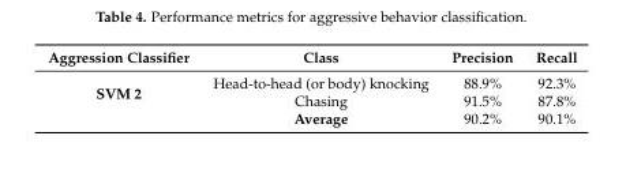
<table><thead><tr><td>Aggression Classifier</td><td>Class</td><td>Precision</td><td>Recall</td></tr></thead><tbody><tr><td rowspan="3">SVM 2</td><td>Head-to-head (or body) knocking</td><td>88.9%</td><td>92.3%</td></tr><tr><td>Chasing</td><td>91.5%</td><td>87.8%</td></tr><tr><td>Average</td><td>90.2%</td><td>90.1%</td></tr></tbody></table>